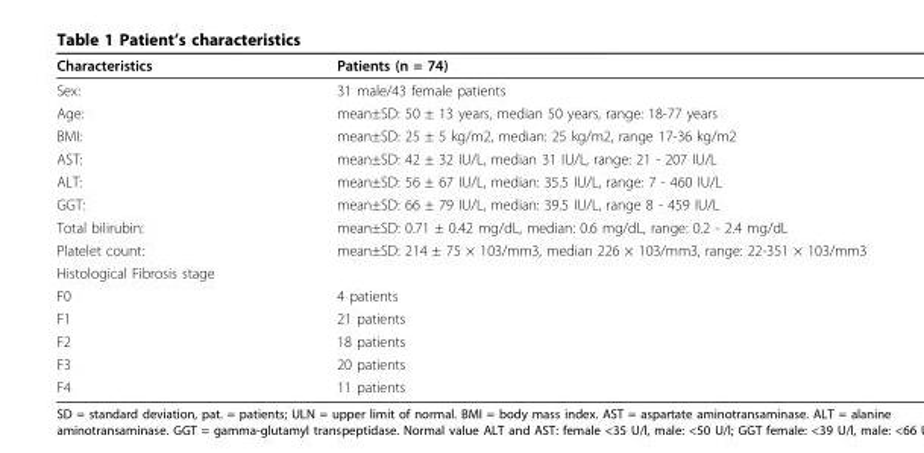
<table><thead><tr><td>Characteristics</td><td>Patients (n = 74)</td></tr></thead><tbody><tr><td>Sex:</td><td>31 male/43 female patients</td></tr><tr><td>Age:</td><td>mean±SD: 50 ± 13 years, median 50 years, range: 18-77 years</td></tr><tr><td>BMI:</td><td>mean±SD: 25 ± 5 kg/m2, median: 25 kg/m2, range 17-36 kg/m2</td></tr><tr><td>AST:</td><td>mean±SD: 42 ± 32 IU/L, median 31 IU/L, range: 21 - 207 IU/L</td></tr><tr><td>ALT:</td><td>mean±SD: 56 ± 67 IU/L, median: 35.5 IU/L, range: 7 - 460 IU/L</td></tr><tr><td>GGT:</td><td>mean±SD: 66 ± 79 IU/L, median: 39.5 IU/L, range 8 - 459 IU/L</td></tr><tr><td>Total bilirubin:</td><td>mean±SD: 0.71 ± 0.42 mg/dL, median: 0.6 mg/dL, range: 0.2 - 2.4 mg/dL</td></tr><tr><td>Platelet count:</td><td>mean±SD: 214 ± 75 × 103/mm3, median 226 × 103/mm3, range: 22-351 × 103/mm3</td></tr><tr><td colspan="2">Histological Fibrosis stage</td></tr><tr><td>F0</td><td>4 patients</td></tr><tr><td>F1</td><td>21 patients</td></tr><tr><td>F2</td><td>18 patients</td></tr><tr><td>F3</td><td>20 patients</td></tr><tr><td>F4</td><td>11 patients</td></tr></tbody></table>